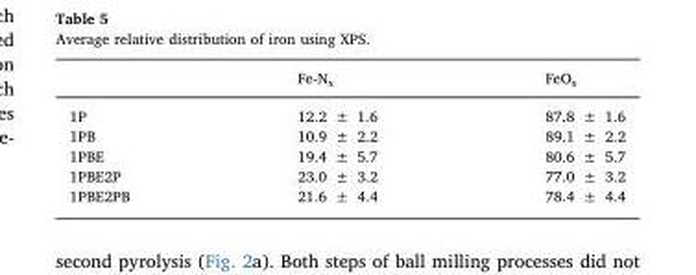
<table><thead><tr><td></td><td>Fe-N<sub>x</sub></td><td>FeO<sub>x</sub></td></tr></thead><tbody><tr><td>1P</td><td>12.2 ± 1.6</td><td>87.8 ± 1.6</td></tr><tr><td>1PB</td><td>10.9 ± 2.2</td><td>89.1 ± 2.2</td></tr><tr><td>1PBE</td><td>19.4 ± 5.7</td><td>80.6 ± 5.7</td></tr><tr><td>1PBE2P</td><td>23.0 ± 3.2</td><td>77.0 ± 3.2</td></tr><tr><td>1PBE2PB</td><td>21.6 ± 4.4</td><td>78.4 ± 4.4</td></tr></tbody></table>